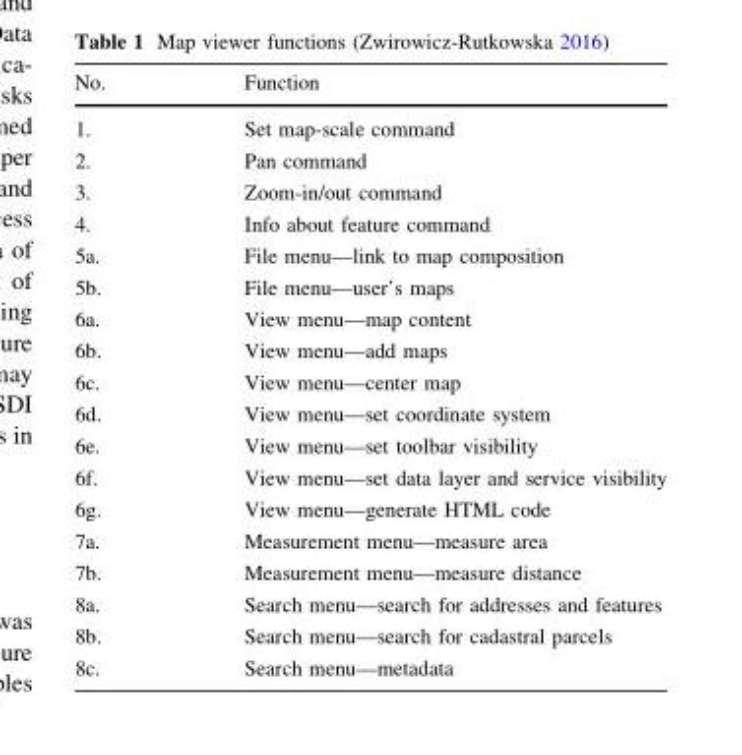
<table><thead><tr><td>No.</td><td>Function</td></tr></thead><tbody><tr><td>1.</td><td>Set map-scale command</td></tr><tr><td>2.</td><td>Pan command</td></tr><tr><td>3.</td><td>Zoom-in/out command</td></tr><tr><td>4.</td><td>Info about feature command</td></tr><tr><td>5a.</td><td>File menu—link to map composition</td></tr><tr><td>5b.</td><td>File menu—user’s maps</td></tr><tr><td>6a.</td><td>View menu—map content</td></tr><tr><td>6b.</td><td>View menu—add maps</td></tr><tr><td>6c.</td><td>View menu—center map</td></tr><tr><td>6d.</td><td>View menu—set coordinate system</td></tr><tr><td>6e.</td><td>View menu—set toolbar visibility</td></tr><tr><td>6f.</td><td>View menu—set data layer and service visibility</td></tr><tr><td>6g.</td><td>View menu—generate HTML code</td></tr><tr><td>7a.</td><td>Measurement menu—measure area</td></tr><tr><td>7b.</td><td>Measurement menu—measure distance</td></tr><tr><td>8a.</td><td>Search menu—search for addresses and features</td></tr><tr><td>8b.</td><td>Search menu—search for cadastral parcels</td></tr><tr><td>8c.</td><td>Search menu—metadata</td></tr></tbody></table>